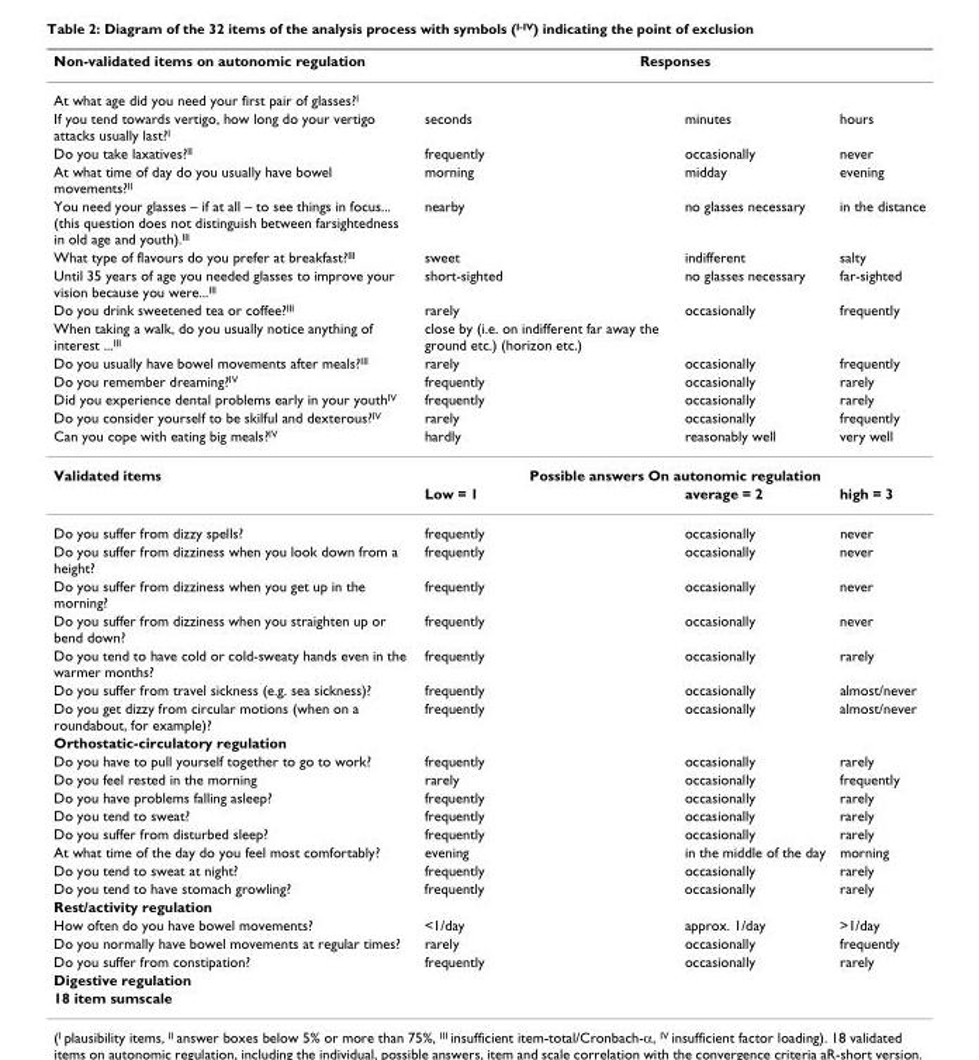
<table><thead><tr><td rowspan="2">Non-validated items on autonomic regulation At what age did you need your first pair of glasses?<sup>I</sup></td><td colspan="3">Responses</td></tr><tr><td></td><td></td><td></td></tr></thead><tbody><tr><td>If you tend towards vertigo, how long do your vertigo attacks usually last?<sup>I</sup></td><td>seconds</td><td>minutes</td><td>hours</td></tr><tr><td>Do you take laxatives?<sup>II</sup></td><td>frequently</td><td>occasionally</td><td>never</td></tr><tr><td>At what time of day do you usually have bowel movements?<sup>II</sup></td><td>morning</td><td>midday</td><td>evening</td></tr><tr><td>You need your glasses – if at all – to see things in focus... (this question does not distinguish between farsightedness in old age and youth).<sup>III</sup></td><td>nearby</td><td>no glasses necessary</td><td>in the distance</td></tr><tr><td>What type of flavours do you prefer at breakfast?<sup>III</sup></td><td>sweet</td><td>indifferent</td><td>salty</td></tr><tr><td>Until 35 years of age you needed glasses to improve your vision because you were...<sup>III</sup></td><td>short-sighted</td><td>no glasses necessary</td><td>far-sighted</td></tr><tr><td>Do you drink sweetened tea or coffee?<sup>III</sup></td><td>rarely</td><td>occasionally</td><td>frequently</td></tr><tr><td>When taking a walk, do you usually notice anything of interest ...<sup>III</sup></td><td>close by (i.e. on indifferent far away the ground etc.) (horizon etc.)</td><td></td><td></td></tr><tr><td>Do you usually have bowel movements after meals?<sup>III</sup></td><td>rarely</td><td>occasionally</td><td>frequently</td></tr><tr><td>Do you remember dreaming?<sup>IV</sup></td><td>frequently</td><td>occasionally</td><td>rarely</td></tr><tr><td>Did you experience dental problems early in your youth<sup>IV</sup></td><td>frequently</td><td>occasionally</td><td>rarely</td></tr><tr><td>Do you consider yourself to be skilful and dexterous?<sup>IV</sup></td><td>rarely</td><td>occasionally</td><td>frequently</td></tr><tr><td>Can you cope with eating big meals?<sup>IV</sup></td><td>hardly</td><td>reasonably well</td><td>very well</td></tr><tr><td rowspan="2">Validated items</td><td colspan="3">Possible answers On autonomic regulation</td></tr><tr><td>Low = 1</td><td>average = 2</td><td>high = 3</td></tr><tr><td>Do you suffer from dizzy spells?</td><td>frequently</td><td>occasionally</td><td>never</td></tr><tr><td>Do you suffer from dizziness when you look down from a height?</td><td>frequently</td><td>occasionally</td><td>never</td></tr><tr><td>Do you suffer from dizziness when you get up in the morning?</td><td>frequently</td><td>occasionally</td><td>never</td></tr><tr><td>Do you suffer from dizziness when you straighten up or bend down?</td><td>frequently</td><td>occasionally</td><td>never</td></tr><tr><td>Do you tend to have cold or cold-sweaty hands even in the warmer months?</td><td>frequently</td><td>occasionally</td><td>rarely</td></tr><tr><td>Do you suffer from travel sickness (e.g. sea sickness)?</td><td>frequently</td><td>occasionally</td><td>almost/never</td></tr><tr><td>Do you get dizzy from circular motions (when on a roundabout, for example)?</td><td>frequently</td><td>occasionally</td><td>almost/never</td></tr><tr><td colspan="4">Orthostatic-circulatory regulation</td></tr><tr><td>Do you have to pull yourself together to go to work?</td><td>frequently</td><td>occasionally</td><td>rarely</td></tr><tr><td>Do you feel rested in the morning</td><td>rarely</td><td>occasionally</td><td>frequently</td></tr><tr><td>Do you have problems falling asleep?</td><td>frequently</td><td>occasionally</td><td>rarely</td></tr><tr><td>Do you tend to sweat?</td><td>frequently</td><td>occasionally</td><td>rarely</td></tr><tr><td>Do you suffer from disturbed sleep?</td><td>frequently</td><td>occasionally</td><td>rarely</td></tr><tr><td>At what time of the day do you feel most comfortably?</td><td>evening</td><td>in the middle of the day</td><td>morning</td></tr><tr><td>Do you tend to sweat at night?</td><td>frequently</td><td>occasionally</td><td>rarely</td></tr><tr><td>Do you tend to have stomach growling?</td><td>frequently</td><td>occasionally</td><td>rarely</td></tr><tr><td colspan="4">Rest/activity regulation</td></tr><tr><td>How often do you have bowel movements?</td><td>&lt;1/day</td><td>approx. 1/day</td><td>&gt;1/day</td></tr><tr><td>Do you normally have bowel movements at regular times?</td><td>rarely</td><td>occasionally</td><td>frequently</td></tr><tr><td>Do you suffer from constipation?</td><td>frequently</td><td>occasionally</td><td>rarely</td></tr><tr><td colspan="4">Digestive regulation</td></tr><tr><td>18 item sumscale</td><td></td><td></td><td></td></tr></tbody></table>